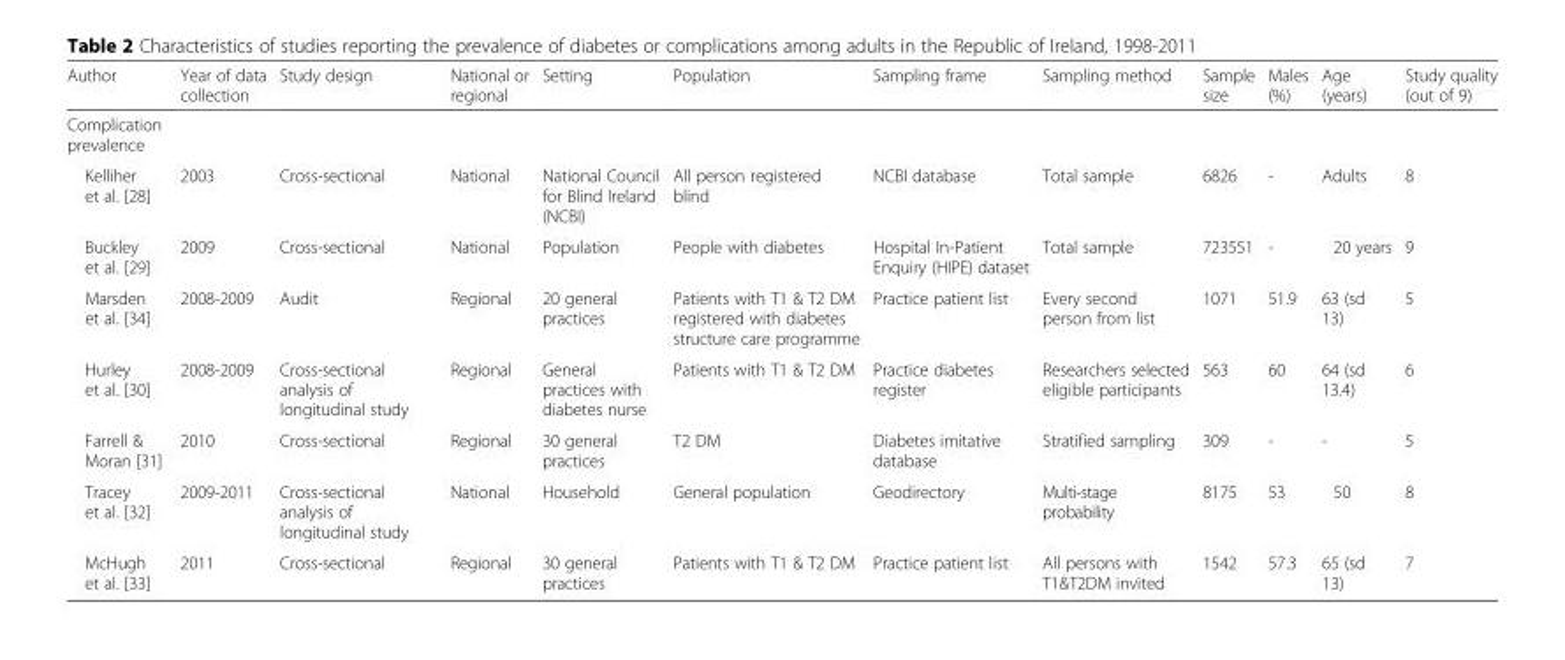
<table><thead><tr><td>Author</td><td>Year of data collection</td><td>Study design</td><td>National or regional</td><td>Setting</td><td>Population</td><td>Sampling frame</td><td>Sampling method</td><td>Sample size</td><td>Males (%)</td><td>Age (years)</td><td>Study quality (out of 9)</td></tr></thead><tbody><tr><td colspan="12">Complication prevalence</td></tr><tr><td>Kelliher et al. [28]</td><td>2003</td><td>Cross-sectional</td><td>National</td><td>National Council for Blind Ireland (NCBI)</td><td>All person registered blind</td><td>NCBI database</td><td>Total sample</td><td>6826</td><td>-</td><td>Adults</td><td>8</td></tr><tr><td>Buckley et al. [29]</td><td>2009</td><td>Cross-sectional</td><td>National</td><td>Population</td><td>People with diabetes</td><td>Hospital In-Patient Enquiry (HIPE) dataset</td><td>Total sample</td><td>723551</td><td>-</td><td>20 years</td><td>9</td></tr><tr><td>Marsden et al. [34]</td><td>2008-2009</td><td>Audit</td><td>Regional</td><td>20 general practices</td><td>Patients with T1 &amp; T2 DM registered with diabetes structure care programme</td><td>Practice patient list</td><td>Every second person from list</td><td>1071</td><td>51.9</td><td>63 (sd 13)</td><td>5</td></tr><tr><td>Hurley et al. [30]</td><td>2008-2009</td><td>Cross-sectional analysis of longitudinal study</td><td>Regional</td><td>General practices with diabetes nurse</td><td>Patients with T1 &amp; T2 DM</td><td>Practice diabetes register</td><td>Researchers selected eligible participants</td><td>563</td><td>60</td><td>64 (sd 13.4)</td><td>6</td></tr><tr><td>Farrell &amp; Moran [31]</td><td>2010</td><td>Cross-sectional</td><td>Regional</td><td>30 general practices</td><td>T2 DM</td><td>Diabetes imitative database</td><td>Stratified sampling</td><td>309</td><td>-</td><td>-</td><td>5</td></tr><tr><td>Tracey et al. [32]</td><td>2009-2011</td><td>Cross-sectional analysis of longitudinal study</td><td>National</td><td>Household</td><td>General population</td><td>Geodirectory</td><td>Multi-stage probability</td><td>8175</td><td>53</td><td>50</td><td>8</td></tr><tr><td>McHugh et al. [33]</td><td>2011</td><td>Cross-sectional</td><td>Regional</td><td>30 general practices</td><td>Patients with T1 &amp; T2 DM</td><td>Practice patient list</td><td>All persons with T1&amp;T2DM invited</td><td>1542</td><td>57.3</td><td>65 (sd 13)</td><td>7</td></tr></tbody></table>